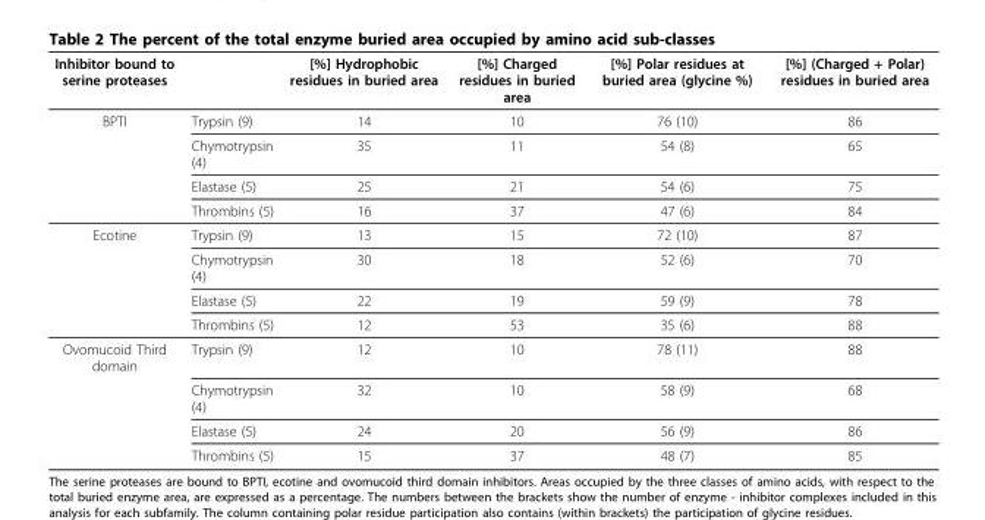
<table><thead><tr><td>Inhibitor bound to serine proteases</td><td></td><td>[%] Hydrophobic residues in buried area</td><td>[%] Charged residues in buried area</td><td>[%] Polar residues at buried area (glycine %)</td><td>[%] (Charged + Polar) residues in buried area</td></tr></thead><tbody><tr><td rowspan="4">BPTI</td><td>Trypsin (9)</td><td>14</td><td>10</td><td>76 (10)</td><td>86</td></tr><tr><td>Chymotrypsin (4)</td><td>35</td><td>11</td><td>54 (8)</td><td>65</td></tr><tr><td>Elastase (5)</td><td>25</td><td>21</td><td>54 (6)</td><td>75</td></tr><tr><td>Thrombins (5)</td><td>16</td><td>37</td><td>47 (6)</td><td>84</td></tr><tr><td rowspan="4">Ecotine</td><td>Trypsin (9)</td><td>13</td><td>15</td><td>72 (10)</td><td>87</td></tr><tr><td>Chymotrypsin (4)</td><td>30</td><td>18</td><td>52 (6)</td><td>70</td></tr><tr><td>Elastase (5)</td><td>22</td><td>19</td><td>59 (9)</td><td>78</td></tr><tr><td>Thrombins (5)</td><td>12</td><td>53</td><td>35 (6)</td><td>88</td></tr><tr><td rowspan="4">Ovomucoid Third domain</td><td>Trypsin (9)</td><td>12</td><td>10</td><td>78 (11)</td><td>88</td></tr><tr><td>Chymotrypsin (4)</td><td>32</td><td>10</td><td>58 (9)</td><td>68</td></tr><tr><td>Elastase (5)</td><td>24</td><td>20</td><td>56 (9)</td><td>86</td></tr><tr><td>Thrombins (5)</td><td>15</td><td>37</td><td>48 (7)</td><td>85</td></tr></tbody></table>